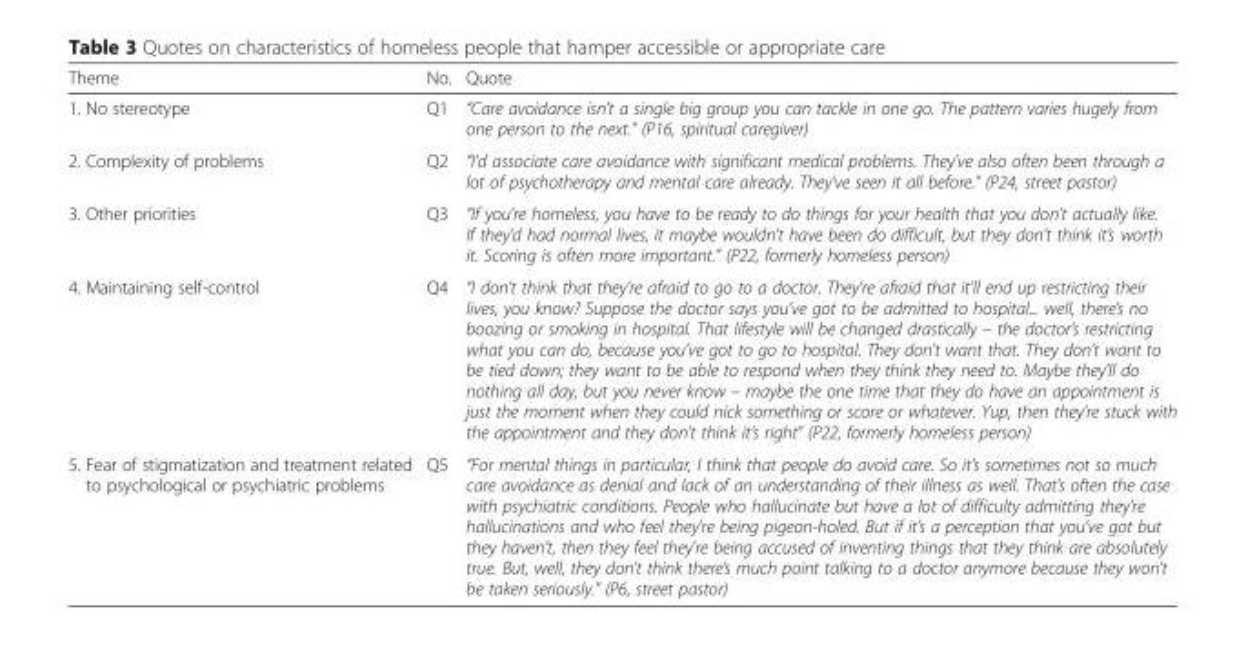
<table><thead><tr><td>Theme</td><td>No.</td><td>Quote</td></tr></thead><tbody><tr><td>1. No stereotype</td><td>Q1</td><td>“Care avoidance isn’t a single big group you can tackle in one go. The pattern varies hugely from one person to the next.” (P16, spiritual caregiver)</td></tr><tr><td>2. Complexity of problems</td><td>Q2</td><td>“I’d associate care avoidance with significant medical problems. They’ve also often been through a lot of psychotherapy and mental care already. They’ve seen it all before.” (P24, street pastor)</td></tr><tr><td>3. Other priorities</td><td>Q3</td><td>“If you’re homeless, you have to be ready to do things for your health that you don’t actually like. If they’d had normal lives, it maybe wouldn’t have been do difficult, but they don’t think it’s worth it. Scoring is often more important.” (P22, formerly homeless person)</td></tr><tr><td>4. Maintaining self-control</td><td>Q4</td><td>“I don’t think that they’re afraid to go to a doctor. They’re afraid that it’ll end up restricting their lives, you know? Suppose the doctor says you’ve got to be admitted to hospital... well, there’s no boozing or smoking in hospital. That lifestyle will be changed drastically – the doctor’s restricting what you can do, because you’ve got to go to hospital. They don’t want that. They don’t want to be tied down; they want to be able to respond when they think they need to. Maybe they’ll do nothing all day, but you never know – maybe the one time that they do have an appointment is just the moment when they could nick something or score or whatever. Yup, then they’re stuck with the appointment and they don’t think it’s right” (P22, formerly homeless person)</td></tr><tr><td>5. Fear of stigmatization and treatment related to psychological or psychiatric problems</td><td>Q5</td><td>“For mental things in particular, I think that people do avoid care. So it’s sometimes not so much care avoidance as denial and lack of an understanding of their illness as well. That’s often the case with psychiatric conditions. People who hallucinate but have a lot of difficulty admitting they’re hallucinations and who feel they’re being pigeon-holed. But if it’s a perception that you’ve got but they haven’t, then they feel they’re being accused of inventing things that they think are absolutely true. But, well, they don’t think there’s much point talking to a doctor anymore because they won’t be taken seriously.” (P6, street pastor)</td></tr></tbody></table>